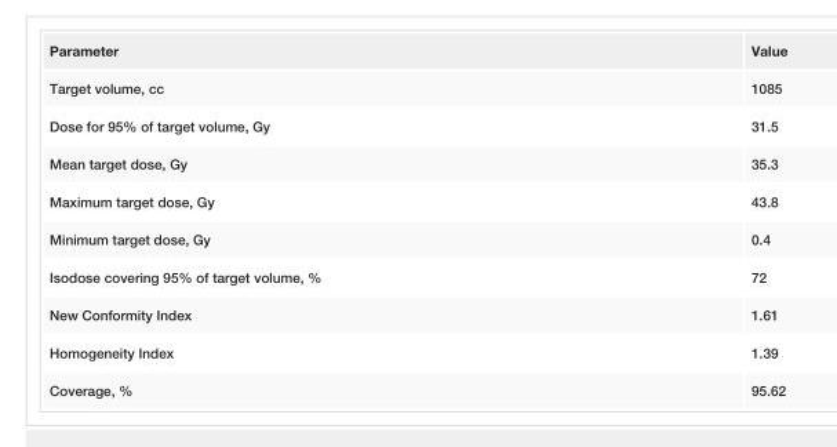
<table><tbody><tr><td>Parameter</td><td>Value</td></tr><tr><td>Target volume, cc</td><td>1085</td></tr><tr><td>Dose for 95% of target volume, Gy</td><td>31.5</td></tr><tr><td>Mean target dose, Gy</td><td>35.3</td></tr><tr><td>Maximum target dose, Gy</td><td>43.8</td></tr><tr><td>Minimum target dose, Gy</td><td>0.4</td></tr><tr><td>Isodose covering 95% of target volume, %</td><td>72</td></tr><tr><td>New Conformity Index</td><td>1.61</td></tr><tr><td>Homogeneity Index</td><td>1.39</td></tr><tr><td>Coverage, %</td><td>95.62</td></tr></tbody></table>